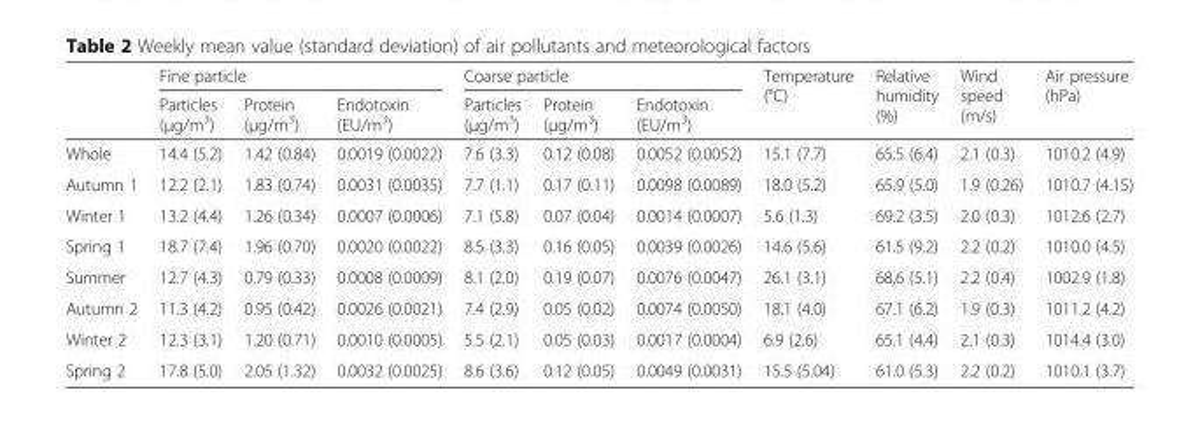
<table><thead><tr><td rowspan="2"></td><td colspan="3">Fine particle</td><td colspan="3">Coarse particle</td><td rowspan="2">Temperature (°C)</td><td rowspan="2">Relative humidity (%)</td><td rowspan="2">Wind speed (m/s)</td><td rowspan="2">Air pressure (hPa)</td></tr><tr><td>Particles (μg/m<sup>3</sup>)</td><td>Protein (μg/m<sup>3</sup>)</td><td>Endotoxin (EU/m<sup>3</sup>)</td><td>Particles (μg/m<sup>3</sup>)</td><td>Protein (μg/m<sup>3</sup>)</td><td>Endotoxin (EU/m<sup>3</sup>)</td></tr></thead><tbody><tr><td>Whole</td><td>14.4 (5.2)</td><td>1.42 (0.84)</td><td>0.0019 (0.0022)</td><td>7.6 (3.3)</td><td>0.12 (0.08)</td><td>0.0052 (0.0052)</td><td>15.1 (7.7)</td><td>65.5 (6.4)</td><td>2.1 (0.3)</td><td>1010.2 (4.9)</td></tr><tr><td>Autumn 1</td><td>12.2 (2.1)</td><td>1.83 (0.74)</td><td>0.0031 (0.0035)</td><td>7.7 (1.1)</td><td>0.17 (0.11)</td><td>0.0098 (0.0089)</td><td>18.0 (5.2)</td><td>65.9 (5.0)</td><td>1.9 (0.26)</td><td>1010.7 (4.15)</td></tr><tr><td>Winter 1</td><td>13.2 (4.4)</td><td>1.26 (0.34)</td><td>0.0007 (0.0006)</td><td>7.1 (5.8)</td><td>0.07 (0.04)</td><td>0.0014 (0.0007)</td><td>5.6 (1.3)</td><td>69.2 (3.5)</td><td>2.0 (0.3)</td><td>1012.6 (2.7)</td></tr><tr><td>Spring 1</td><td>18.7 (7.4)</td><td>1.96 (0.70)</td><td>0.0020 (0.0022)</td><td>8.5 (3.3)</td><td>0.16 (0.05)</td><td>0.0039 (0.0026)</td><td>14.6 (5.6)</td><td>61.5 (9.2)</td><td>2.2 (0.2)</td><td>1010.0 (4.5)</td></tr><tr><td>Summer</td><td>12.7 (4.3)</td><td>0.79 (0.33)</td><td>0.0008 (0.0009)</td><td>8.1 (2.0)</td><td>0.19 (0.07)</td><td>0.0076 (0.0047)</td><td>26.1 (3.1)</td><td>68.6 (5.1)</td><td>2.2 (0.4)</td><td>1002.9 (1.8)</td></tr><tr><td>Autumn 2</td><td>11.3 (4.2)</td><td>0.95 (0.42)</td><td>0.0026 (0.0021)</td><td>7.4 (2.9)</td><td>0.05 (0.02)</td><td>0.0074 (0.0050)</td><td>18.1 (4.0)</td><td>67.1 (6.2)</td><td>1.9 (0.3)</td><td>1011.2 (4.2)</td></tr><tr><td>Winter 2</td><td>12.3 (3.1)</td><td>1.20 (0.71)</td><td>0.0010 (0.0005)</td><td>5.5 (2.1)</td><td>0.05 (0.03)</td><td>0.0017 (0.0004)</td><td>6.9 (2.6)</td><td>65.1 (4.4)</td><td>2.1 (0.3)</td><td>1014.4 (3.0)</td></tr><tr><td>Spring 2</td><td>17.8 (5.0)</td><td>2.05 (1.32)</td><td>0.0032 (0.0025)</td><td>8.6 (3.6)</td><td>0.12 (0.05)</td><td>0.0049 (0.0031)</td><td>15.5 (5.04)</td><td>61.0 (5.3)</td><td>2.2 (0.2)</td><td>1010.1 (3.7)</td></tr></tbody></table>